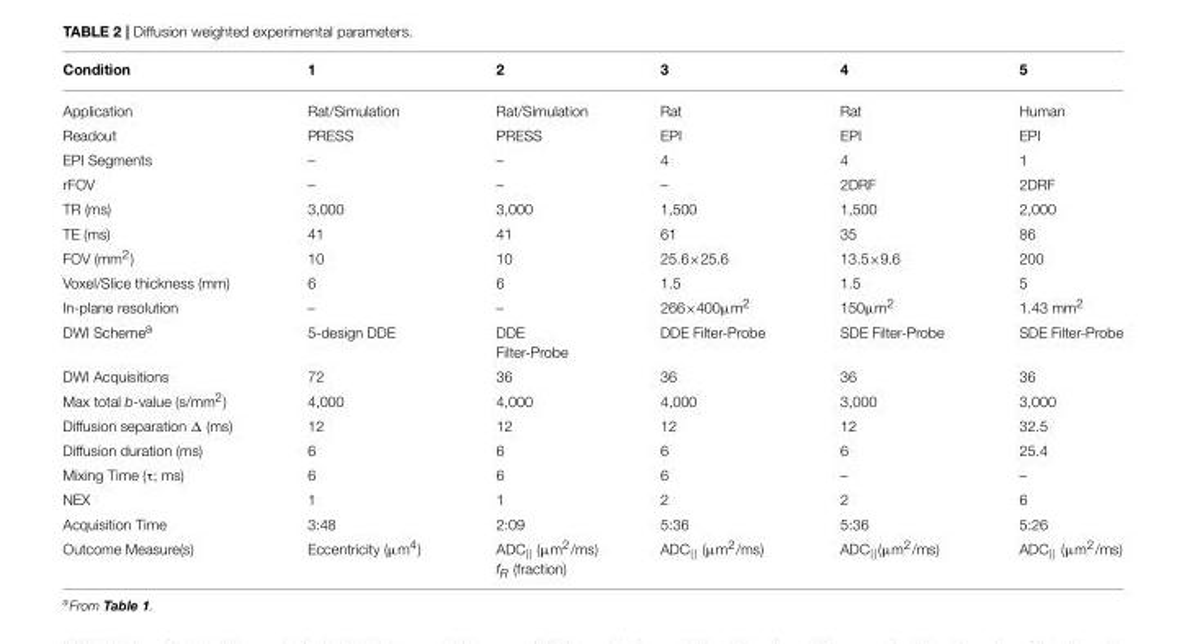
<table><thead><tr><td>Condition</td><td>1</td><td>2</td><td>3</td><td>4</td><td>5</td></tr></thead><tbody><tr><td>Application</td><td>Rat/Simulation</td><td>Rat/Simulation</td><td>Rat</td><td>Rat</td><td>Human</td></tr><tr><td>Readout</td><td>PRESS</td><td>PRESS</td><td>EPI</td><td>EPI</td><td>EPI</td></tr><tr><td>EPI Segments</td><td>–</td><td>–</td><td>4</td><td>4</td><td>1</td></tr><tr><td>rFOV</td><td>–</td><td>–</td><td>–</td><td>2DRF</td><td>2DRF</td></tr><tr><td>TR (ms)</td><td>3,000</td><td>3,000</td><td>1,500</td><td>1,500</td><td>2,000</td></tr><tr><td>TE (ms)</td><td>41</td><td>41</td><td>61</td><td>35</td><td>86</td></tr><tr><td>FOV (mm<sup>2</sup>)</td><td>10</td><td>10</td><td>25.6×25.6</td><td>13.5×9.6</td><td>200</td></tr><tr><td>Voxel/Slice thickness (mm)</td><td>6</td><td>6</td><td>1.5</td><td>1.5</td><td>5</td></tr><tr><td>In-plane resolution</td><td>–</td><td>–</td><td>266×400µm<sup>2</sup></td><td>150µm<sup>2</sup></td><td>1.43 mm<sup>2</sup></td></tr><tr><td>DWI Scheme<sup>a</sup></td><td>5-design DDE</td><td>DDE Filter-Probe</td><td>DDE Filter-Probe</td><td>SDE Filter-Probe</td><td>SDE Filter-Probe</td></tr><tr><td>DWI Acquisitions</td><td>72</td><td>36</td><td>36</td><td>36</td><td>36</td></tr><tr><td>Max total b-value (s/mm<sup>2</sup>)</td><td>4,000</td><td>4,000</td><td>4,000</td><td>3,000</td><td>3,000</td></tr><tr><td>Diffusion separation Δ (ms)</td><td>12</td><td>12</td><td>12</td><td>12</td><td>32.5</td></tr><tr><td>Diffusion duration (ms)</td><td>6</td><td>6</td><td>6</td><td>6</td><td>25.4</td></tr><tr><td>Mixing Time (τ; ms)</td><td>6</td><td>6</td><td>6</td><td>–</td><td>–</td></tr><tr><td>NEX</td><td>1</td><td>1</td><td>2</td><td>2</td><td>6</td></tr><tr><td>Acquisition Time</td><td>3:48</td><td>2:09</td><td>5:36</td><td>5:36</td><td>5:26</td></tr><tr><td>Outcome Measure(s)</td><td>Eccentricity (µm<sup>4</sup>)</td><td>ADC|| (µm2/ms) fR (fraction)</td><td>ADC<sub>||</sub> (µm<sup>2</sup>/ms)</td><td>ADC<sub>||</sub>(µm<sup>2</sup>/ms)</td><td>ADC<sub>||</sub> (µm<sup>2</sup>/ms)</td></tr></tbody></table>